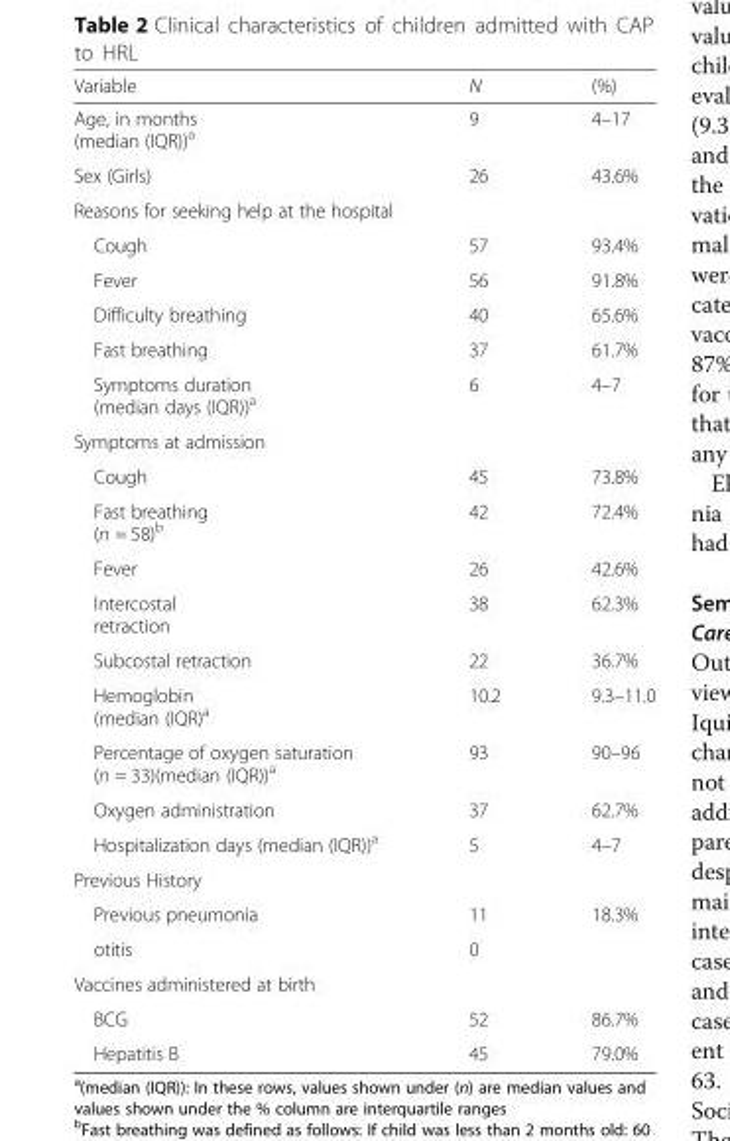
<table><thead><tr><td>Variable</td><td>N</td><td>(%)</td></tr></thead><tbody><tr><td>Age, in months (median (IQR))<sup>a</sup></td><td>9</td><td>4–17</td></tr><tr><td>Sex (Girls)</td><td>26</td><td>43.6%</td></tr><tr><td colspan="3">Reasons for seeking help at the hospital</td></tr><tr><td>Cough</td><td>57</td><td>93.4%</td></tr><tr><td>Fever</td><td>56</td><td>91.8%</td></tr><tr><td>Difficulty breathing</td><td>40</td><td>65.6%</td></tr><tr><td>Fast breathing</td><td>37</td><td>61.7%</td></tr><tr><td>Symptoms duration (median days (IQR))<sup>a</sup></td><td>6</td><td>4–7</td></tr><tr><td colspan="3">Symptoms at admission</td></tr><tr><td>Cough</td><td>45</td><td>73.8%</td></tr><tr><td>Fast breathing (n = 58)<sup>b</sup></td><td>42</td><td>72.4%</td></tr><tr><td>Fever</td><td>26</td><td>42.6%</td></tr><tr><td>Intercostal retraction</td><td>38</td><td>62.3%</td></tr><tr><td>Subcostal retraction</td><td>22</td><td>36.7%</td></tr><tr><td>Hemoglobin (median (IQR)<sup>a</sup></td><td>10.2</td><td>9.3–11.0</td></tr><tr><td>Percentage of oxygen saturation (n = 33)(median (IQR))<sup>a</sup></td><td>93</td><td>90–96</td></tr><tr><td>Oxygen administration</td><td>37</td><td>62.7%</td></tr><tr><td>Hospitalization days (median (IQR))<sup>a</sup></td><td>5</td><td>4–7</td></tr><tr><td colspan="3">Previous History</td></tr><tr><td>Previous pneumonia</td><td>11</td><td>18.3%</td></tr><tr><td>otitis</td><td>0</td><td></td></tr><tr><td colspan="3">Vaccines administered at birth</td></tr><tr><td>BCG</td><td>52</td><td>86.7%</td></tr><tr><td>Hepatitis B</td><td>45</td><td>79.0%</td></tr></tbody></table>